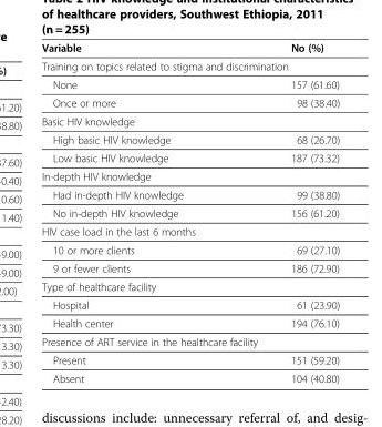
<table><thead><tr><td>Variable</td><td>No (%)</td></tr></thead><tbody><tr><td colspan="2">Training on topics related to stigma and discrimination</td></tr><tr><td>None</td><td>157 (61.60)</td></tr><tr><td>Once or more</td><td>98 (38.40)</td></tr><tr><td colspan="2">Basic HIV knowledge</td></tr><tr><td>High basic HIV knowledge</td><td>68 (26.70)</td></tr><tr><td>Low basic HIV knowledge</td><td>187 (73.32)</td></tr><tr><td colspan="2">In-depth HIV knowledge</td></tr><tr><td>Had in-depth HIV knowledge</td><td>99 (38.80)</td></tr><tr><td>No in-depth HIV knowledge</td><td>156 (61.20)</td></tr><tr><td colspan="2">HIV case load in the last 6 months</td></tr><tr><td>10 or more clients</td><td>69 (27.10)</td></tr><tr><td>9 or fewer clients</td><td>186 (72.90)</td></tr><tr><td colspan="2">Type of healthcare facility</td></tr><tr><td>Hospital</td><td>61 (23.90)</td></tr><tr><td>Health center</td><td>194 (76.10)</td></tr><tr><td colspan="2">Presence of ART service in the healthcare facility</td></tr><tr><td>Present</td><td>151 (59.20)</td></tr><tr><td>Absent</td><td>104 (40.80)</td></tr></tbody></table>